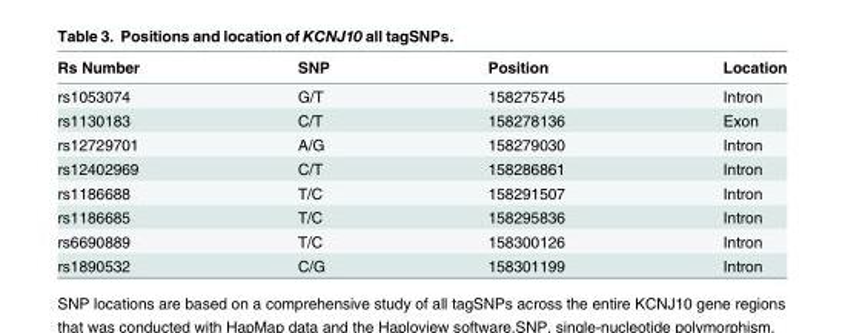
<table><thead><tr><td>Rs Number</td><td>SNP</td><td>Position</td><td>Location</td></tr></thead><tbody><tr><td>rs1053074</td><td>G/T</td><td>158275745</td><td>Intron</td></tr><tr><td>rs1130183</td><td>C/T</td><td>158278136</td><td>Exon</td></tr><tr><td>rs12729701</td><td>A/G</td><td>158279030</td><td>Intron</td></tr><tr><td>rs12402969</td><td>C/T</td><td>158286861</td><td>Intron</td></tr><tr><td>rs1186688</td><td>T/C</td><td>158291507</td><td>Intron</td></tr><tr><td>rs1186685</td><td>T/C</td><td>158295836</td><td>Intron</td></tr><tr><td>rs6690889</td><td>T/C</td><td>158300126</td><td>Intron</td></tr><tr><td>rs1890532</td><td>C/G</td><td>158301199</td><td>Intron</td></tr></tbody></table>